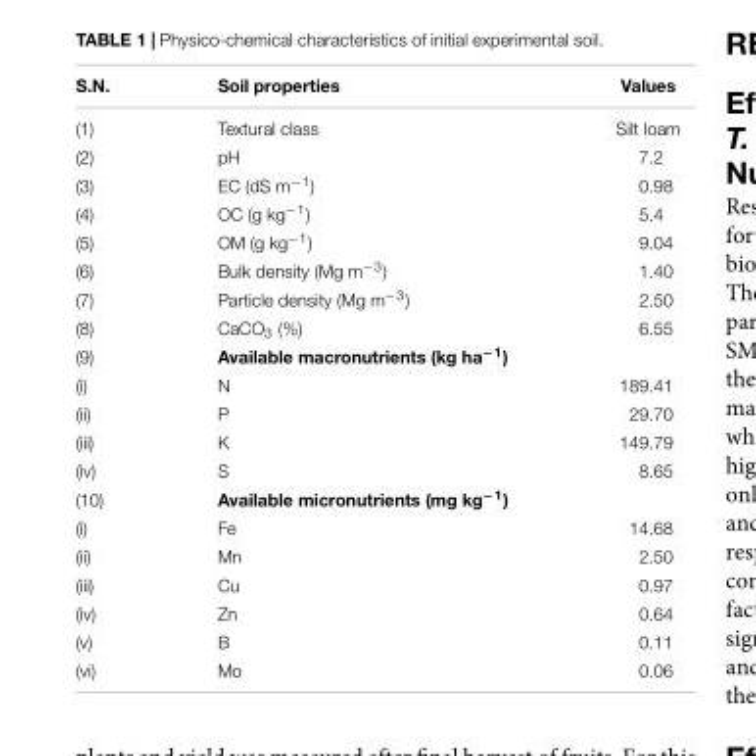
<table><thead><tr><td>S.N.</td><td>Soil properties</td><td>Values</td></tr></thead><tbody><tr><td>(1)</td><td>Textural class</td><td>Silt loam</td></tr><tr><td>(2)</td><td>pH</td><td>7.2</td></tr><tr><td>(3)</td><td>EC (dS m<sup>−1</sup>)</td><td>0.98</td></tr><tr><td>(4)</td><td>OC (g kg<sup>−1</sup>)</td><td>5.4</td></tr><tr><td>(5)</td><td>OM (g kg<sup>−1</sup>)</td><td>9.04</td></tr><tr><td>(6)</td><td>Bulk density (Mg m<sup>−3</sup>)</td><td>1.40</td></tr><tr><td>(7)</td><td>Particle density (Mg m<sup>−3</sup>)</td><td>2.50</td></tr><tr><td>(8)</td><td>CaCO<sub>3</sub> (%)</td><td>6.55</td></tr><tr><td>(9)</td><td>Available macronutrients (kg ha<sup>−1</sup>)</td><td></td></tr><tr><td>(i)</td><td>N</td><td>189.41</td></tr><tr><td>(ii)</td><td>P</td><td>29.70</td></tr><tr><td>(iii)</td><td>K</td><td>149.79</td></tr><tr><td>(iv)</td><td>S</td><td>8.65</td></tr><tr><td>(10)</td><td>Available micronutrients (mg kg<sup>−1</sup>)</td><td></td></tr><tr><td>(i)</td><td>Fe</td><td>14.68</td></tr><tr><td>(ii)</td><td>Mn</td><td>2.50</td></tr><tr><td>(iii)</td><td>Cu</td><td>0.97</td></tr><tr><td>(iv)</td><td>Zn</td><td>0.64</td></tr><tr><td>(v)</td><td>B</td><td>0.11</td></tr><tr><td>(vi)</td><td>Mo</td><td>0.06</td></tr></tbody></table>